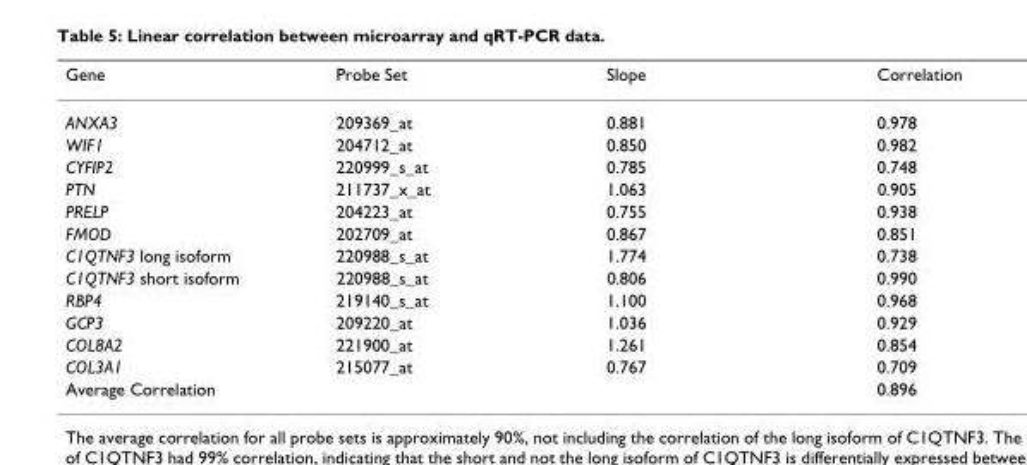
<table><thead><tr><td>Gene</td><td>Probe Set</td><td>Slope</td><td>Correlation</td></tr></thead><tbody><tr><td>ANXA3</td><td>209369_at</td><td>0.881</td><td>0.978</td></tr><tr><td>WIF1</td><td>204712_at</td><td>0.850</td><td>0.982</td></tr><tr><td>CYFIP2</td><td>220999_s_at</td><td>0.785</td><td>0.748</td></tr><tr><td>PTN</td><td>211737_x_at</td><td>1.063</td><td>0.905</td></tr><tr><td>PRELP</td><td>204223_at</td><td>0.755</td><td>0.938</td></tr><tr><td>FMOD</td><td>202709_at</td><td>0.867</td><td>0.851</td></tr><tr><td>C1QTNF3 long isoform</td><td>220988_s_at</td><td>1.774</td><td>0.738</td></tr><tr><td>C1QTNF3 short isoform</td><td>220988_s_at</td><td>0.806</td><td>0.990</td></tr><tr><td>RBP4</td><td>219140_s_at</td><td>1.100</td><td>0.968</td></tr><tr><td>GCP3</td><td>209220_at</td><td>1.036</td><td>0.929</td></tr><tr><td>COL8A2</td><td>221900_at</td><td>1.261</td><td>0.854</td></tr><tr><td>COL3A1</td><td>215077_at</td><td>0.767</td><td>0.709</td></tr><tr><td colspan="3">Average Correlation</td><td>0.896</td></tr></tbody></table>